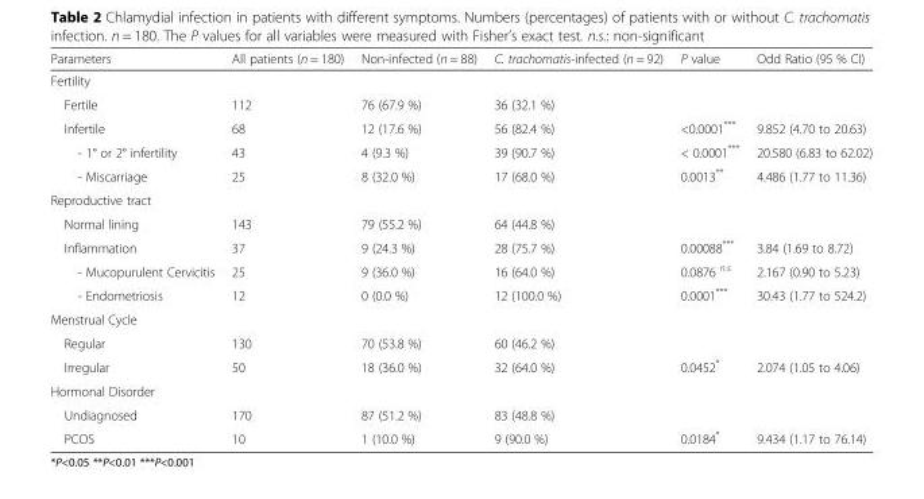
<table><thead><tr><td>Parameters</td><td>All patients (n = 180)</td><td>Non-infected (n = 88)</td><td>C. trachomatis-infected (n = 92)</td><td>P value</td><td>Odd Ratio (95 % CI)</td></tr></thead><tbody><tr><td colspan="6">Fertility</td></tr><tr><td>Fertile</td><td>112</td><td>76 (67.9 %)</td><td>36 (32.1 %)</td><td></td><td></td></tr><tr><td>Infertile</td><td>68</td><td>12 (17.6 %)</td><td>56 (82.4 %)</td><td>&lt;0.0001***</td><td>9.852 (4.70 to 20.63)</td></tr><tr><td>- 1° or 2° infertility</td><td>43</td><td>4 (9.3 %)</td><td>39 (90.7 %)</td><td>&lt; 0.0001***</td><td>20.580 (6.83 to 62.02)</td></tr><tr><td>- Miscarriage</td><td>25</td><td>8 (32.0 %)</td><td>17 (68.0 %)</td><td>0.0013**</td><td>4.486 (1.77 to 11.36)</td></tr><tr><td colspan="6">Reproductive tract</td></tr><tr><td>Normal lining</td><td>143</td><td>79 (55.2 %)</td><td>64 (44.8 %)</td><td></td><td></td></tr><tr><td>Inflammation</td><td>37</td><td>9 (24.3 %)</td><td>28 (75.7 %)</td><td>0.00088***</td><td>3.84 (1.69 to 8.72)</td></tr><tr><td>- Mucopurulent Cervicitis</td><td>25</td><td>9 (36.0 %)</td><td>16 (64.0 %)</td><td>0.0876 <sup>n.s.</sup></td><td>2.167 (0.90 to 5.23)</td></tr><tr><td>- Endometriosis</td><td>12</td><td>0 (0.0 %)</td><td>12 (100.0 %)</td><td>0.0001***</td><td>30.43 (1.77 to 524.2)</td></tr><tr><td colspan="6">Menstrual Cycle</td></tr><tr><td>Regular</td><td>130</td><td>70 (53.8 %)</td><td>60 (46.2 %)</td><td></td><td></td></tr><tr><td>Irregular</td><td>50</td><td>18 (36.0 %)</td><td>32 (64.0 %)</td><td>0.0452*</td><td>2.074 (1.05 to 4.06)</td></tr><tr><td colspan="6">Hormonal Disorder</td></tr><tr><td>Undiagnosed</td><td>170</td><td>87 (51.2 %)</td><td>83 (48.8 %)</td><td></td><td></td></tr><tr><td>PCOS</td><td>10</td><td>1 (10.0 %)</td><td>9 (90.0 %)</td><td>0.0184*</td><td>9.434 (1.17 to 76.14)</td></tr></tbody></table>